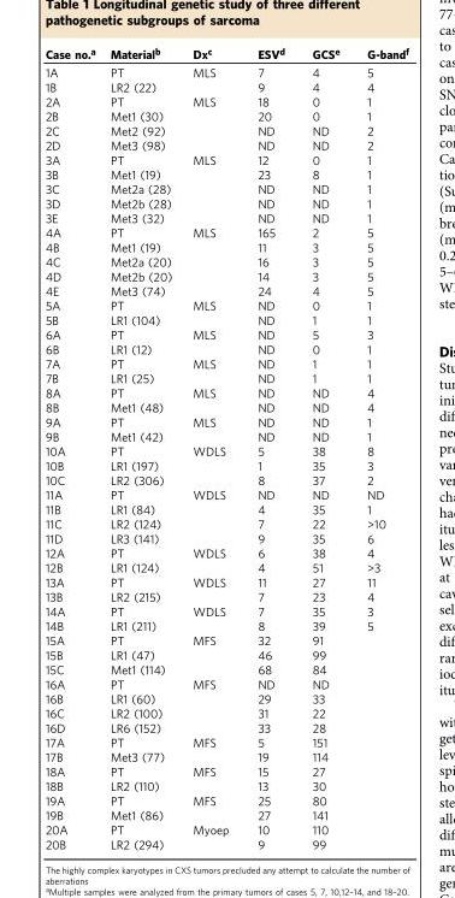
<table><thead><tr><td>Case no.<sup>a</sup></td><td>Material<sup>b</sup></td><td>Dx<sup>c</sup></td><td>ESV<sup>d</sup></td><td>GCS<sup>e</sup></td><td>G-band<sup>f</sup></td></tr></thead><tbody><tr><td>1A</td><td>PT</td><td>MLS</td><td>7</td><td>4</td><td>5</td></tr><tr><td>1B</td><td>LR2 (22)</td><td></td><td>9</td><td>4</td><td>4</td></tr><tr><td>2A</td><td>PT</td><td>MLS</td><td>18</td><td>0</td><td>1</td></tr><tr><td>2B</td><td>Met1 (30)</td><td></td><td>20</td><td>0</td><td>1</td></tr><tr><td>2C</td><td>Met2 (92)</td><td></td><td>ND</td><td>ND</td><td>2</td></tr><tr><td>2D</td><td>Met3 (98)</td><td></td><td>ND</td><td>ND</td><td>2</td></tr><tr><td>3A</td><td>PT</td><td>MLS</td><td>12</td><td>0</td><td>1</td></tr><tr><td>3B</td><td>Met1 (19)</td><td></td><td>23</td><td>8</td><td>1</td></tr><tr><td>3C</td><td>Met2a (28)</td><td></td><td>ND</td><td>ND</td><td>1</td></tr><tr><td>3D</td><td>Met2b (28)</td><td></td><td>ND</td><td>ND</td><td>1</td></tr><tr><td>3E</td><td>Met3 (32)</td><td></td><td>ND</td><td>ND</td><td>1</td></tr><tr><td>4A</td><td>PT</td><td>MLS</td><td>165</td><td>2</td><td>5</td></tr><tr><td>4B</td><td>Met1 (19)</td><td></td><td>11</td><td>3</td><td>5</td></tr><tr><td>4C</td><td>Met2a (20)</td><td></td><td>16</td><td>3</td><td>5</td></tr><tr><td>4D</td><td>Met2b (20)</td><td></td><td>14</td><td>3</td><td>5</td></tr><tr><td>4E</td><td>Met3 (74)</td><td></td><td>24</td><td>4</td><td>5</td></tr><tr><td>5A</td><td>PT</td><td>MLS</td><td>ND</td><td>0</td><td>1</td></tr><tr><td>5B</td><td>LR1 (104)</td><td></td><td>ND</td><td>1</td><td>1</td></tr><tr><td>6A</td><td>PT</td><td>MLS</td><td>ND</td><td>5</td><td>3</td></tr><tr><td>6B</td><td>LR1 (12)</td><td></td><td>ND</td><td>0</td><td>1</td></tr><tr><td>7A</td><td>PT</td><td>MLS</td><td>ND</td><td>1</td><td>1</td></tr><tr><td>7B</td><td>LR1 (25)</td><td></td><td>ND</td><td>1</td><td>1</td></tr><tr><td>8A</td><td>PT</td><td>MLS</td><td>ND</td><td>ND</td><td>4</td></tr><tr><td>8B</td><td>Met1 (48)</td><td></td><td>ND</td><td>ND</td><td>4</td></tr><tr><td>9A</td><td>PT</td><td>MLS</td><td>ND</td><td>ND</td><td>1</td></tr><tr><td>9B</td><td>Met1 (42)</td><td></td><td>ND</td><td>ND</td><td>1</td></tr><tr><td>10A</td><td>PT</td><td>WDLS</td><td>5</td><td>38</td><td>8</td></tr><tr><td>10B</td><td>LR1 (197)</td><td></td><td>1</td><td>35</td><td>3</td></tr><tr><td>10C</td><td>LR2 (306)</td><td></td><td>8</td><td>37</td><td>2</td></tr><tr><td>11A</td><td>PT</td><td>WDLS</td><td>ND</td><td>ND</td><td>ND</td></tr><tr><td>11B</td><td>LR1 (84)</td><td></td><td>4</td><td>35</td><td>1</td></tr><tr><td>11C</td><td>LR2 (124)</td><td></td><td>7</td><td>22</td><td>&gt;10</td></tr><tr><td>11D</td><td>LR3 (141)</td><td></td><td>9</td><td>35</td><td>6</td></tr><tr><td>12A</td><td>PT</td><td>WDLS</td><td>6</td><td>38</td><td>4</td></tr><tr><td>12B</td><td>LR1 (124)</td><td></td><td>4</td><td>51</td><td>&gt;3</td></tr><tr><td>13A</td><td>PT</td><td>WDLS</td><td>11</td><td>27</td><td>11</td></tr><tr><td>13B</td><td>LR2 (215)</td><td></td><td>7</td><td>23</td><td>4</td></tr><tr><td>14A</td><td>PT</td><td>WDLS</td><td>7</td><td>35</td><td>3</td></tr><tr><td>14B</td><td>LR1 (211)</td><td></td><td>8</td><td>39</td><td>5</td></tr><tr><td>15A</td><td>PT</td><td>MFS</td><td>32</td><td>91</td><td></td></tr><tr><td>15B</td><td>LR1 (47)</td><td></td><td>46</td><td>99</td><td></td></tr><tr><td>15C</td><td>Met1 (114)</td><td></td><td>68</td><td>84</td><td></td></tr><tr><td>16A</td><td>PT</td><td>MFS</td><td>ND</td><td>ND</td><td></td></tr><tr><td>16B</td><td>LR1 (60)</td><td></td><td>29</td><td>33</td><td></td></tr><tr><td>16C</td><td>LR2 (100)</td><td></td><td>31</td><td>22</td><td></td></tr><tr><td>16D</td><td>LR6 (152)</td><td></td><td>33</td><td>28</td><td></td></tr><tr><td>17A</td><td>PT</td><td>MFS</td><td>5</td><td>151</td><td></td></tr><tr><td>17B</td><td>Met3 (77)</td><td></td><td>19</td><td>114</td><td></td></tr><tr><td>18A</td><td>PT</td><td>MFS</td><td>15</td><td>27</td><td></td></tr><tr><td>18B</td><td>LR2 (110)</td><td></td><td>13</td><td>30</td><td></td></tr><tr><td>19A</td><td>PT</td><td>MFS</td><td>25</td><td>80</td><td></td></tr><tr><td>19B</td><td>Met1 (86)</td><td></td><td>27</td><td>141</td><td></td></tr><tr><td>20A</td><td>PT</td><td>Myoep</td><td>10</td><td>110</td><td></td></tr><tr><td>20B</td><td>LR2 (294)</td><td></td><td>9</td><td>99</td><td></td></tr></tbody></table>